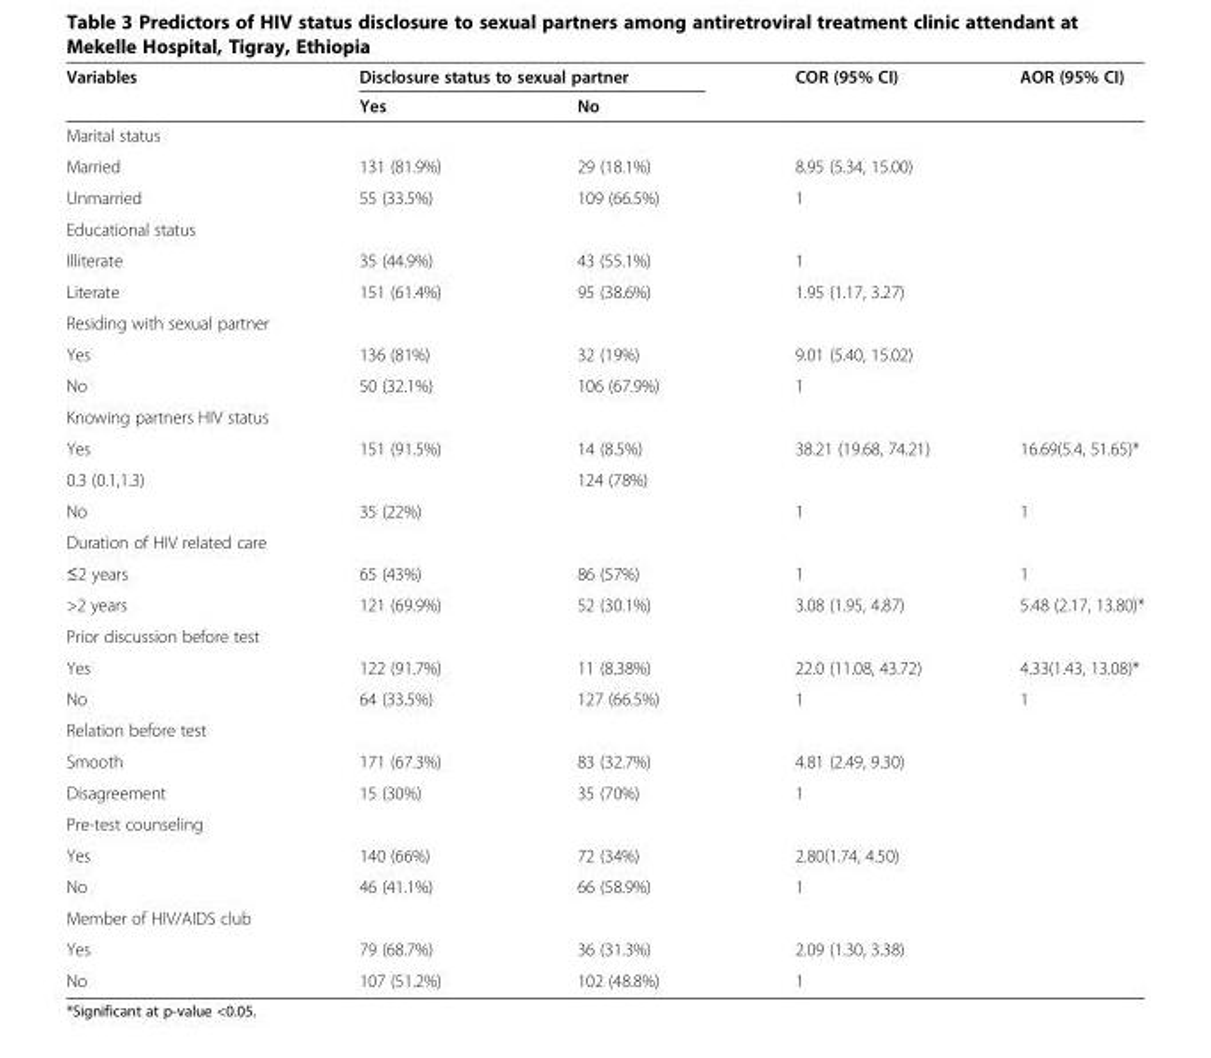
<table><thead><tr><td rowspan="2">Variables</td><td colspan="2">Disclosure status to sexual partner</td><td rowspan="2">COR (95% CI)</td><td rowspan="2">AOR (95% CI)</td></tr><tr><td>Yes</td><td>No</td></tr></thead><tbody><tr><td colspan="5">Marital status</td></tr><tr><td>Married</td><td>131 (81.9%)</td><td>29 (18.1%)</td><td>8.95 (5.34, 15.00)</td><td></td></tr><tr><td>Unmarried</td><td>55 (33.5%)</td><td>109 (66.5%)</td><td>1</td><td></td></tr><tr><td colspan="5">Educational status</td></tr><tr><td>Illiterate</td><td>35 (44.9%)</td><td>43 (55.1%)</td><td>1</td><td></td></tr><tr><td>Literate</td><td>151 (61.4%)</td><td>95 (38.6%)</td><td>1.95 (1.17, 3.27)</td><td></td></tr><tr><td colspan="5">Residing with sexual partner</td></tr><tr><td>Yes</td><td>136 (81%)</td><td>32 (19%)</td><td>9.01 (5.40, 15.02)</td><td></td></tr><tr><td>No</td><td>50 (32.1%)</td><td>106 (67.9%)</td><td>1</td><td></td></tr><tr><td colspan="5">Knowing partners HIV status</td></tr><tr><td>Yes</td><td>151 (91.5%)</td><td>14 (8.5%)</td><td>38.21 (19.68, 74.21)</td><td>16.69(5.4, 51.65)*</td></tr><tr><td>0.3 (0.1,1.3)</td><td></td><td>124 (78%)</td><td></td><td></td></tr><tr><td>No</td><td>35 (22%)</td><td></td><td>1</td><td>1</td></tr><tr><td colspan="5">Duration of HIV related care</td></tr><tr><td>≤2 years</td><td>65 (43%)</td><td>86 (57%)</td><td>1</td><td>1</td></tr><tr><td>&gt;2 years</td><td>121 (69.9%)</td><td>52 (30.1%)</td><td>3.08 (1.95, 4.87)</td><td>5.48 (2.17, 13.80)*</td></tr><tr><td colspan="5">Prior discussion before test</td></tr><tr><td>Yes</td><td>122 (91.7%)</td><td>11 (8.38%)</td><td>22.0 (11.08, 43.72)</td><td>4.33(1.43, 13.08)*</td></tr><tr><td>No</td><td>64 (33.5%)</td><td>127 (66.5%)</td><td>1</td><td>1</td></tr><tr><td colspan="5">Relation before test</td></tr><tr><td>Smooth</td><td>171 (67.3%)</td><td>83 (32.7%)</td><td>4.81 (2.49, 9.30)</td><td></td></tr><tr><td>Disagreement</td><td>15 (30%)</td><td>35 (70%)</td><td>1</td><td></td></tr><tr><td colspan="5">Pre-test counseling</td></tr><tr><td>Yes</td><td>140 (66%)</td><td>72 (34%)</td><td>2.80(1.74, 4.50)</td><td></td></tr><tr><td>No</td><td>46 (41.1%)</td><td>66 (58.9%)</td><td>1</td><td></td></tr><tr><td colspan="5">Member of HIV/AIDS club</td></tr><tr><td>Yes</td><td>79 (68.7%)</td><td>36 (31.3%)</td><td>2.09 (1.30, 3.38)</td><td></td></tr><tr><td>No</td><td>107 (51.2%)</td><td>102 (48.8%)</td><td>1</td><td></td></tr></tbody></table>